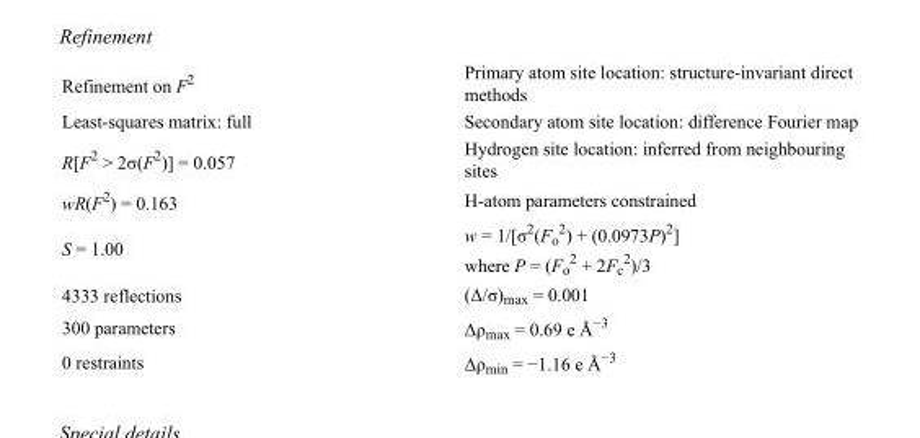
<table><tbody><tr><td>Refinement on F<sup>2</sup></td><td>Primary atom site location: structure-invariant direct methods</td></tr><tr><td>Least-squares matrix: full</td><td>Secondary atom site location: difference Fourier map</td></tr><tr><td>R[F<sup>2</sup> &gt; 2σ(F<sup>2</sup>)] = 0.057</td><td>Hydrogen site location: inferred from neighbouring sites</td></tr><tr><td>wR(F<sup>2</sup>) = 0.163</td><td>H-atom parameters constrained</td></tr><tr><td>S = 1.00</td><td>w = 1/[σ<sup>2</sup>(F<sub>o</sub> <sup>2</sup>) + (0.0973P)<sup>2</sup>] where P = (F<sub>o</sub> <sup>2</sup> + 2F<sub>c</sub> <sup>2</sup>)/3</td></tr><tr><td>4333 reflections</td><td>(Δ/σ)<sub>max</sub> = 0.001</td></tr><tr><td>300 parameters</td><td>Δρ<sub>max</sub> = 0.69 e Å<sup>−3</sup></td></tr><tr><td>0 restraints</td><td>Δρ<sub>min</sub> = −1.16 e Å<sup>−3</sup></td></tr></tbody></table>